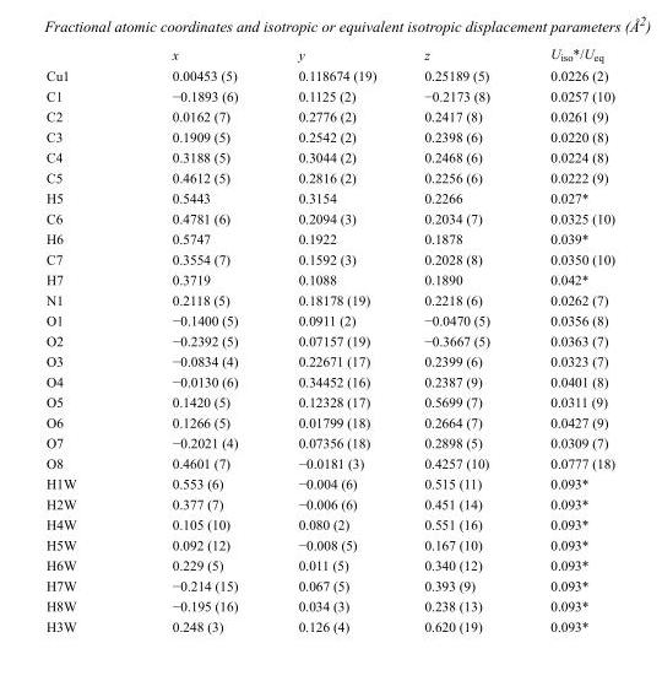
<table><thead><tr><td></td><td>x</td><td>y</td><td>z</td><td>U<sub>iso</sub>*/U<sub>eq</sub></td></tr></thead><tbody><tr><td>Cu1</td><td>0.00453 (5)</td><td>0.118674 (19)</td><td>0.25189 (5)</td><td>0.0226 (2)</td></tr><tr><td>C1</td><td>−0.1893 (6)</td><td>0.1125 (2)</td><td>−0.2173 (8)</td><td>0.0257 (10)</td></tr><tr><td>C2</td><td>0.0162 (7)</td><td>0.2776 (2)</td><td>0.2417 (8)</td><td>0.0261 (9)</td></tr><tr><td>C3</td><td>0.1909 (5)</td><td>0.2542 (2)</td><td>0.2398 (6)</td><td>0.0220 (8)</td></tr><tr><td>C4</td><td>0.3188 (5)</td><td>0.3044 (2)</td><td>0.2468 (6)</td><td>0.0224 (8)</td></tr><tr><td>C5</td><td>0.4612 (5)</td><td>0.2816 (2)</td><td>0.2256 (6)</td><td>0.0222 (9)</td></tr><tr><td>H5</td><td>0.5443</td><td>0.3154</td><td>0.2266</td><td>0.027*</td></tr><tr><td>C6</td><td>0.4781 (6)</td><td>0.2094 (3)</td><td>0.2034 (7)</td><td>0.0325 (10)</td></tr><tr><td>H6</td><td>0.5747</td><td>0.1922</td><td>0.1878</td><td>0.039*</td></tr><tr><td>C7</td><td>0.3554 (7)</td><td>0.1592 (3)</td><td>0.2028 (8)</td><td>0.0350 (10)</td></tr><tr><td>H7</td><td>0.3719</td><td>0.1088</td><td>0.1890</td><td>0.042*</td></tr><tr><td>N1</td><td>0.2118 (5)</td><td>0.18178 (19)</td><td>0.2218 (6)</td><td>0.0262 (7)</td></tr><tr><td>O1</td><td>−0.1400 (5)</td><td>0.0911 (2)</td><td>−0.0470 (5)</td><td>0.0356 (8)</td></tr><tr><td>O2</td><td>−0.2392 (5)</td><td>0.07157 (19)</td><td>−0.3667 (5)</td><td>0.0363 (7)</td></tr><tr><td>O3</td><td>−0.0834 (4)</td><td>0.22671 (17)</td><td>0.2399 (6)</td><td>0.0323 (7)</td></tr><tr><td>O4</td><td>−0.0130 (6)</td><td>0.34452 (16)</td><td>0.2387 (9)</td><td>0.0401 (8)</td></tr><tr><td>O5</td><td>0.1420 (5)</td><td>0.12328 (17)</td><td>0.5699 (7)</td><td>0.0311 (9)</td></tr><tr><td>O6</td><td>0.1266 (5)</td><td>0.01799 (18)</td><td>0.2664 (7)</td><td>0.0427 (9)</td></tr><tr><td>O7</td><td>−0.2021 (4)</td><td>0.07356 (18)</td><td>0.2898 (5)</td><td>0.0309 (7)</td></tr><tr><td>O8</td><td>0.4601 (7)</td><td>−0.0181 (3)</td><td>0.4257 (10)</td><td>0.0777 (18)</td></tr><tr><td>H1W</td><td>0.553 (6)</td><td>−0.004 (6)</td><td>0.515 (11)</td><td>0.093*</td></tr><tr><td>H2W</td><td>0.377 (7)</td><td>−0.006 (6)</td><td>0.451 (14)</td><td>0.093*</td></tr><tr><td>H4W</td><td>0.105 (10)</td><td>0.080 (2)</td><td>0.551 (16)</td><td>0.093*</td></tr><tr><td>H5W</td><td>0.092 (12)</td><td>−0.008 (5)</td><td>0.167 (10)</td><td>0.093*</td></tr><tr><td>H6W</td><td>0.229 (5)</td><td>0.011 (5)</td><td>0.340 (12)</td><td>0.093*</td></tr><tr><td>H7W</td><td>−0.214 (15)</td><td>0.067 (5)</td><td>0.393 (9)</td><td>0.093*</td></tr><tr><td>H8W</td><td>−0.195 (16)</td><td>0.034 (3)</td><td>0.238 (13)</td><td>0.093*</td></tr><tr><td>H3W</td><td>0.248 (3)</td><td>0.126 (4)</td><td>0.620 (19)</td><td>0.093*</td></tr></tbody></table>